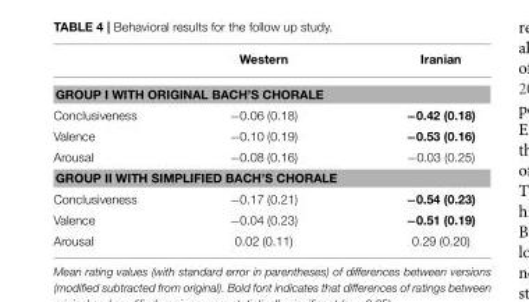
<table><thead><tr><td></td><td>Western</td><td>Iranian</td></tr></thead><tbody><tr><td colspan="3">GROUP I WITH ORIGINAL BACH’S CHORALE</td></tr><tr><td>Conclusiveness</td><td>−0.06 (0.18)</td><td>−0.42 (0.18)</td></tr><tr><td>Valence</td><td>−0.10 (0.19)</td><td>−0.53 (0.16)</td></tr><tr><td>Arousal</td><td>−0.08 (0.16)</td><td>−0.03 (0.25)</td></tr><tr><td colspan="3">GROUP II WITH SIMPLIFIED BACH’S CHORALE</td></tr><tr><td>Conclusiveness</td><td>−0.17 (0.21)</td><td>−0.54 (0.23)</td></tr><tr><td>Valence</td><td>−0.04 (0.23)</td><td>−0.51 (0.19)</td></tr><tr><td>Arousal</td><td>0.02 (0.11)</td><td>0.29 (0.20)</td></tr></tbody></table>